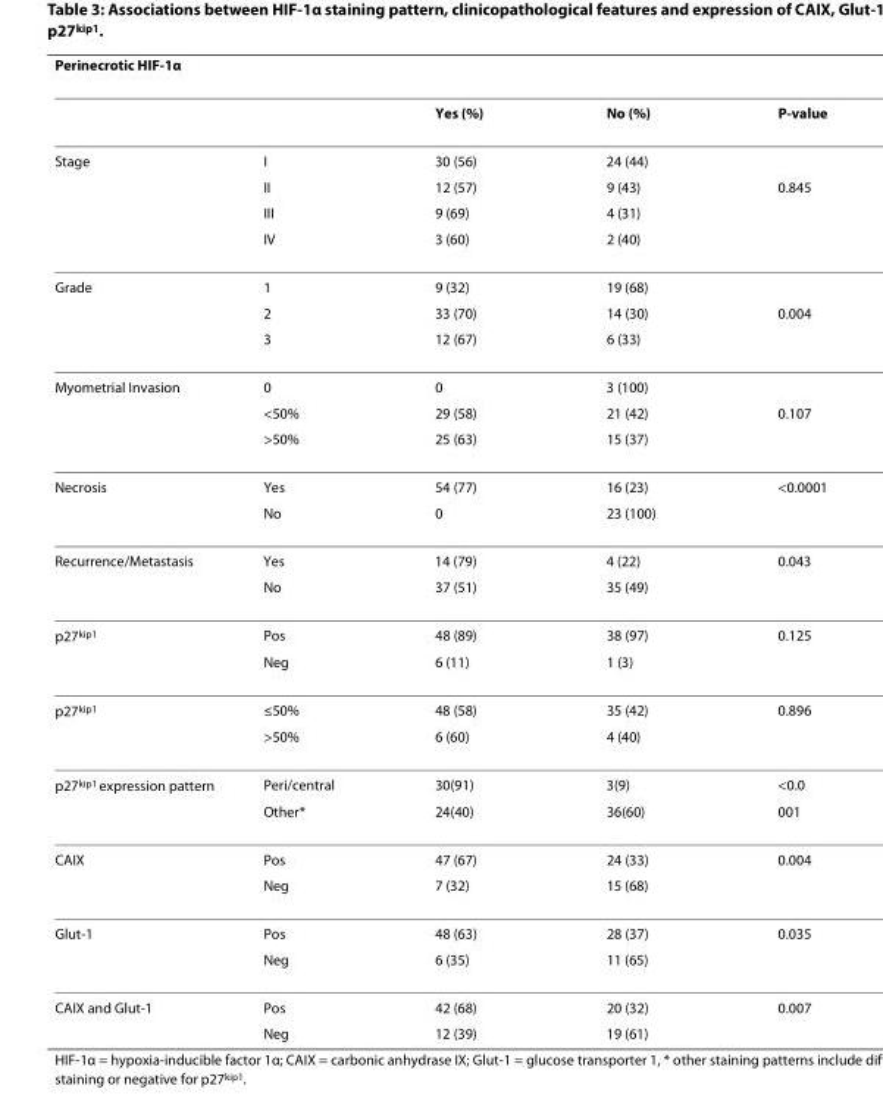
<table><thead><tr><td colspan="5">Perinecrotic HIF-1α</td></tr><tr><td></td><td></td><td>Yes (%)</td><td>No (%)</td><td>P-value</td></tr></thead><tbody><tr><td rowspan="4">Stage</td><td>I</td><td>30 (56)</td><td>24 (44)</td><td></td></tr><tr><td>II</td><td>12 (57)</td><td>9 (43)</td><td>0.845</td></tr><tr><td>III</td><td>9 (69)</td><td>4 (31)</td><td></td></tr><tr><td>IV</td><td>3 (60)</td><td>2 (40)</td><td></td></tr><tr><td rowspan="3">Grade</td><td>1</td><td>9 (32)</td><td>19 (68)</td><td></td></tr><tr><td>2</td><td>33 (70)</td><td>14 (30)</td><td>0.004</td></tr><tr><td>3</td><td>12 (67)</td><td>6 (33)</td><td></td></tr><tr><td rowspan="3">Myometrial Invasion</td><td>0</td><td>0</td><td>3 (100)</td><td></td></tr><tr><td>&lt;50%</td><td>29 (58)</td><td>21 (42)</td><td>0.107</td></tr><tr><td>&gt;50%</td><td>25 (63)</td><td>15 (37)</td><td></td></tr><tr><td rowspan="2">Necrosis</td><td>Yes</td><td>54 (77)</td><td>16 (23)</td><td>&lt;0.0001</td></tr><tr><td>No</td><td>0</td><td>23 (100)</td><td></td></tr><tr><td rowspan="2">Recurrence/Metastasis</td><td>Yes</td><td>14 (79)</td><td>4 (22)</td><td>0.043</td></tr><tr><td>No</td><td>37 (51)</td><td>35 (49)</td><td></td></tr><tr><td rowspan="2">p27<sup>kip1</sup></td><td>Pos</td><td>48 (89)</td><td>38 (97)</td><td>0.125</td></tr><tr><td>Neg</td><td>6 (11)</td><td>1 (3)</td><td></td></tr><tr><td rowspan="2">p27<sup>kip1</sup></td><td>≤50%</td><td>48 (58)</td><td>35 (42)</td><td>0.896</td></tr><tr><td>&gt;50%</td><td>6 (60)</td><td>4 (40)</td><td></td></tr><tr><td rowspan="2">p27<sup>kip1</sup> expression pattern</td><td>Peri/central</td><td>30(91)</td><td>3(9)</td><td>&lt;0.0</td></tr><tr><td>Other*</td><td>24(40)</td><td>36(60)</td><td>001</td></tr><tr><td rowspan="2">CAIX</td><td>Pos</td><td>47 (67)</td><td>24 (33)</td><td>0.004</td></tr><tr><td>Neg</td><td>7 (32)</td><td>15 (68)</td><td></td></tr><tr><td rowspan="2">Glut-1</td><td>Pos</td><td>48 (63)</td><td>28 (37)</td><td>0.035</td></tr><tr><td>Neg</td><td>6 (35)</td><td>11 (65)</td><td></td></tr><tr><td rowspan="2">CAIX and Glut-1</td><td>Pos</td><td>42 (68)</td><td>20 (32)</td><td>0.007</td></tr><tr><td>Neg</td><td>12 (39)</td><td>19 (61)</td><td></td></tr></tbody></table>